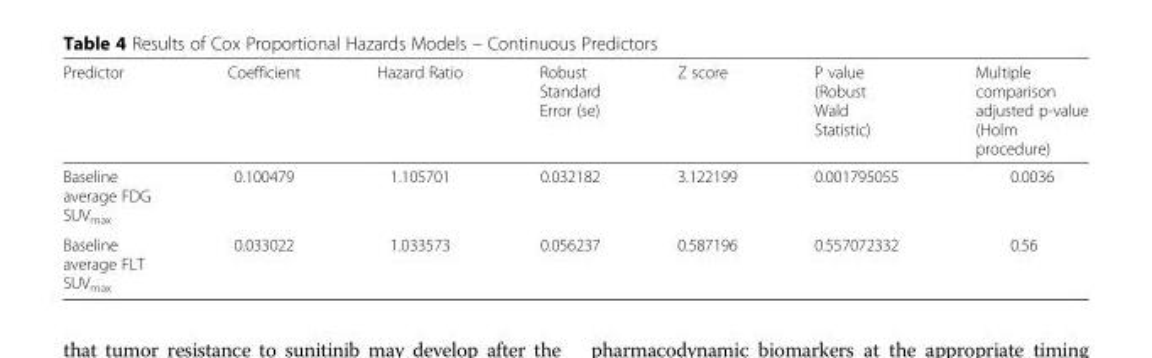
<table><thead><tr><td>Predictor</td><td>Coefficient</td><td>Hazard Ratio</td><td>Robust Standard Error (se)</td><td>Z score</td><td>P value (Robust Wald Statistic)</td><td>Multiple comparison adjusted p-value (Holm procedure)</td></tr></thead><tbody><tr><td>Baseline average FDG SUV<sub>max</sub></td><td>0.100479</td><td>1.105701</td><td>0.032182</td><td>3.122199</td><td>0.001795055</td><td>0.0036</td></tr><tr><td>Baseline average FLT SUV<sub>max</sub></td><td>0.033022</td><td>1.033573</td><td>0.056237</td><td>0.587196</td><td>0.557072332</td><td>0.56</td></tr></tbody></table>